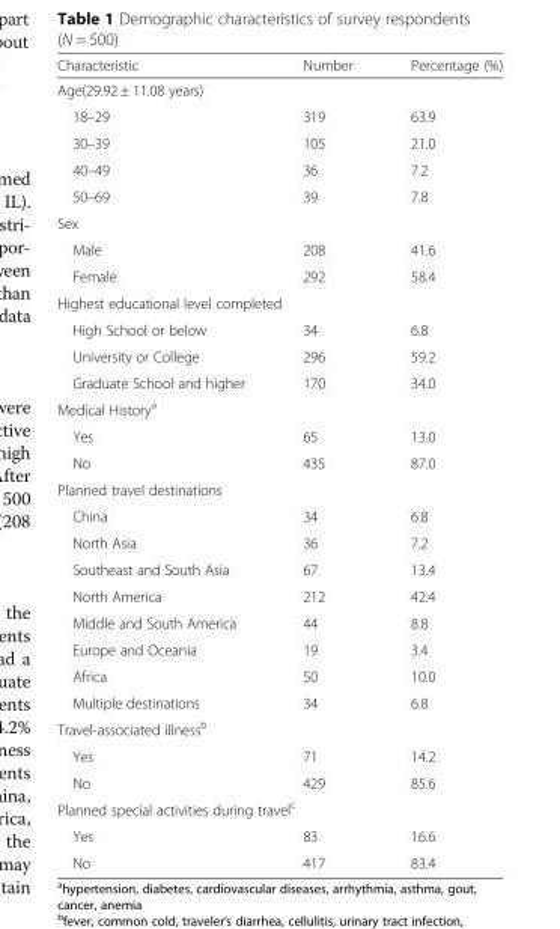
<table><thead><tr><td>Characteristic</td><td>Number</td><td>Percentage (%)</td></tr></thead><tbody><tr><td colspan="3">Age(29.92 ± 11.08 years)</td></tr><tr><td>18–29</td><td>319</td><td>63.9</td></tr><tr><td>30–39</td><td>105</td><td>21.0</td></tr><tr><td>40–49</td><td>36</td><td>7.2</td></tr><tr><td>50–69</td><td>39</td><td>7.8</td></tr><tr><td colspan="3">Sex</td></tr><tr><td>Male</td><td>208</td><td>41.6</td></tr><tr><td>Female</td><td>292</td><td>58.4</td></tr><tr><td colspan="3">Highest educational level completed</td></tr><tr><td>High School or below</td><td>34</td><td>6.8</td></tr><tr><td>University or College</td><td>296</td><td>59.2</td></tr><tr><td>Graduate School and higher</td><td>170</td><td>34.0</td></tr><tr><td colspan="3">Medical History<sup>a</sup></td></tr><tr><td>Yes</td><td>65</td><td>13.0</td></tr><tr><td>No</td><td>435</td><td>87.0</td></tr><tr><td colspan="3">Planned travel destinations</td></tr><tr><td>China</td><td>34</td><td>6.8</td></tr><tr><td>North Asia</td><td>36</td><td>7.2</td></tr><tr><td>Southeast and South Asia</td><td>67</td><td>13.4</td></tr><tr><td>North America</td><td>212</td><td>42.4</td></tr><tr><td>Middle and South America</td><td>44</td><td>8.8</td></tr><tr><td>Europe and Oceania</td><td>19</td><td>3.4</td></tr><tr><td>Africa</td><td>50</td><td>10.0</td></tr><tr><td>Multiple destinations</td><td>34</td><td>6.8</td></tr><tr><td colspan="3">Travel-associated illness<sup>b</sup></td></tr><tr><td>Yes</td><td>71</td><td>14.2</td></tr><tr><td>No</td><td>429</td><td>85.6</td></tr><tr><td colspan="3">Planned special activities during travel<sup>c</sup></td></tr><tr><td>Yes</td><td>83</td><td>16.6</td></tr><tr><td>No</td><td>417</td><td>83.4</td></tr></tbody></table>